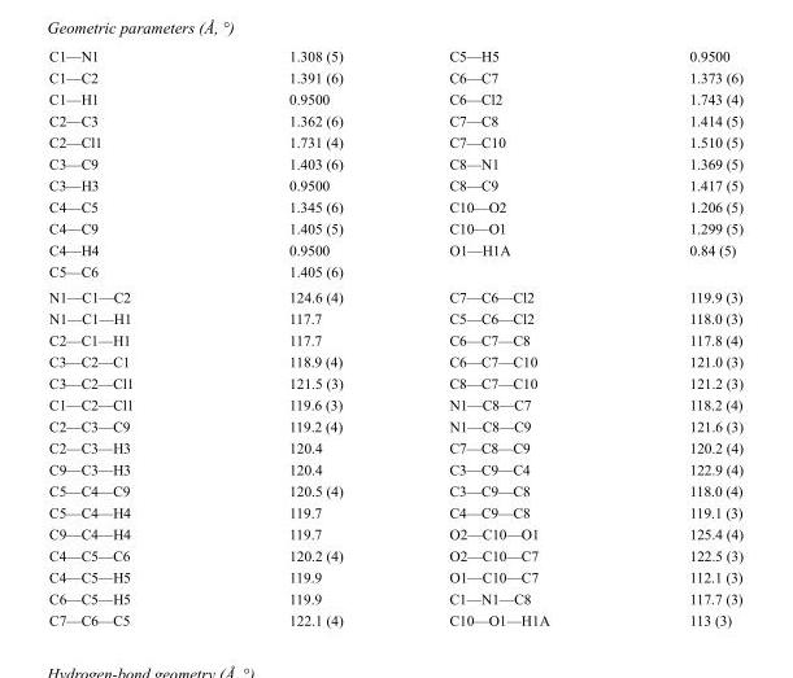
<table><tbody><tr><td>C1—N1</td><td>1.308 (5)</td><td>C5—H5</td><td>0.9500</td></tr><tr><td>C1—C2</td><td>1.391 (6)</td><td>C6—C7</td><td>1.373 (6)</td></tr><tr><td>C1—H1</td><td>0.9500</td><td>C6—Cl2</td><td>1.743 (4)</td></tr><tr><td>C2—C3</td><td>1.362 (6)</td><td>C7—C8</td><td>1.414 (5)</td></tr><tr><td>C2—Cl1</td><td>1.731 (4)</td><td>C7—C10</td><td>1.510 (5)</td></tr><tr><td>C3—C9</td><td>1.403 (6)</td><td>C8—N1</td><td>1.369 (5)</td></tr><tr><td>C3—H3</td><td>0.9500</td><td>C8—C9</td><td>1.417 (5)</td></tr><tr><td>C4—C5</td><td>1.345 (6)</td><td>C10—O2</td><td>1.206 (5)</td></tr><tr><td>C4—C9</td><td>1.405 (5)</td><td>C10—O1</td><td>1.299 (5)</td></tr><tr><td>C4—H4</td><td>0.9500</td><td>O1—H1A</td><td>0.84 (5)</td></tr><tr><td>C5—C6</td><td>1.405 (6)</td><td></td><td></td></tr><tr><td>N1—C1—C2</td><td>124.6 (4)</td><td>C7—C6—Cl2</td><td>119.9 (3)</td></tr><tr><td>N1—C1—H1</td><td>117.7</td><td>C5—C6—Cl2</td><td>118.0 (3)</td></tr><tr><td>C2—C1—H1</td><td>117.7</td><td>C6—C7—C8</td><td>117.8 (4)</td></tr><tr><td>C3—C2—C1</td><td>118.9 (4)</td><td>C6—C7—C10</td><td>121.0 (3)</td></tr><tr><td>C3—C2—Cl1</td><td>121.5 (3)</td><td>C8—C7—C10</td><td>121.2 (3)</td></tr><tr><td>C1—C2—Cl1</td><td>119.6 (3)</td><td>N1—C8—C7</td><td>118.2 (4)</td></tr><tr><td>C2—C3—C9</td><td>119.2 (4)</td><td>N1—C8—C9</td><td>121.6 (3)</td></tr><tr><td>C2—C3—H3</td><td>120.4</td><td>C7—C8—C9</td><td>120.2 (4)</td></tr><tr><td>C9—C3—H3</td><td>120.4</td><td>C3—C9—C4</td><td>122.9 (4)</td></tr><tr><td>C5—C4—C9</td><td>120.5 (4)</td><td>C3—C9—C8</td><td>118.0 (4)</td></tr><tr><td>C5—C4—H4</td><td>119.7</td><td>C4—C9—C8</td><td>119.1 (3)</td></tr><tr><td>C9—C4—H4</td><td>119.7</td><td>O2—C10—O1</td><td>125.4 (4)</td></tr><tr><td>C4—C5—C6</td><td>120.2 (4)</td><td>O2—C10—C7</td><td>122.5 (3)</td></tr><tr><td>C4—C5—H5</td><td>119.9</td><td>O1—C10—C7</td><td>112.1 (3)</td></tr><tr><td>C6—C5—H5</td><td>119.9</td><td>C1—N1—C8</td><td>117.7 (3)</td></tr><tr><td>C7—C6—C5</td><td>122.1 (4)</td><td>C10—O1—H1A</td><td>113 (3)</td></tr></tbody></table>